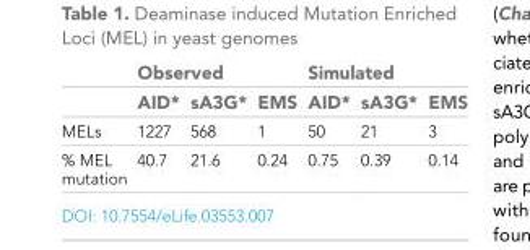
<table><thead><tr><td rowspan="2"></td><td colspan="3">Observed</td><td colspan="3">Simulated</td></tr><tr><td>AID*</td><td>sA3G*</td><td>EMS</td><td>AID*</td><td>sA3G*</td><td>EMS</td></tr></thead><tbody><tr><td>MELs</td><td>1227</td><td>568</td><td>1</td><td>50</td><td>21</td><td>3</td></tr><tr><td>% MEL mutation</td><td>40.7</td><td>21.6</td><td>0.24</td><td>0.75</td><td>0.39</td><td>0.14</td></tr></tbody></table>